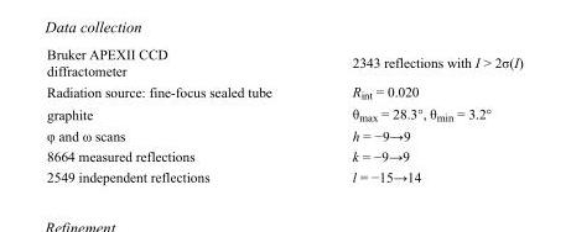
<table><tbody><tr><td>Bruker APEXII CCD diffractometer</td><td>2343 reflections with I &gt; 2σ(I)</td></tr><tr><td>Radiation source: fine-focus sealed tube</td><td>R<sub>int</sub> = 0.020</td></tr><tr><td>graphite</td><td>θ<sub>max</sub> = 28.3°, θ<sub>min</sub> = 3.2°</td></tr><tr><td>φ and ω scans</td><td>h = −9→9</td></tr><tr><td>8664 measured reflections</td><td>k = −9→9</td></tr><tr><td>2549 independent reflections</td><td>l = −15→14</td></tr></tbody></table>